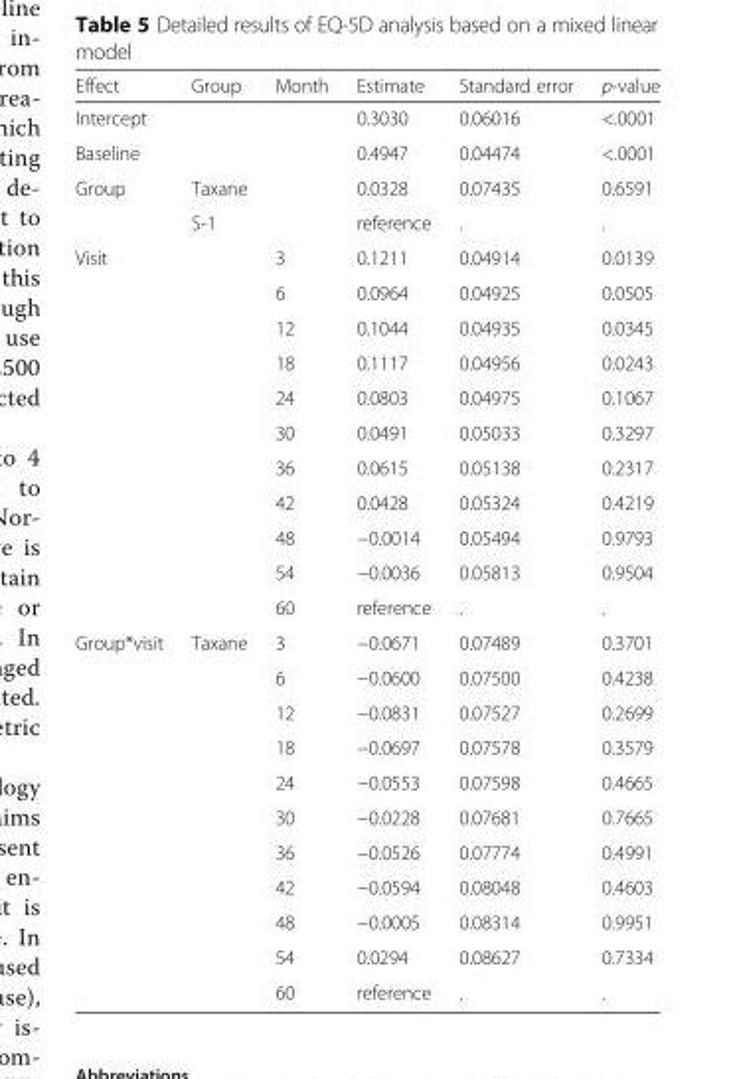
<table><thead><tr><td>Effect</td><td>Group</td><td>Month</td><td>Estimate</td><td>Standard error</td><td>p-value</td></tr></thead><tbody><tr><td>Intercept</td><td></td><td></td><td>0.3030</td><td>0.06016</td><td>&lt;.0001</td></tr><tr><td>Baseline</td><td></td><td></td><td>0.4947</td><td>0.04474</td><td>&lt;.0001</td></tr><tr><td rowspan="2">Group</td><td>Taxane</td><td></td><td>0.0328</td><td>0.07435</td><td>0.6591</td></tr><tr><td>S-1</td><td></td><td>reference</td><td>.</td><td>.</td></tr><tr><td rowspan="11">Visit</td><td></td><td>3</td><td>0.1211</td><td>0.04914</td><td>0.0139</td></tr><tr><td></td><td>6</td><td>0.0964</td><td>0.04925</td><td>0.0505</td></tr><tr><td></td><td>12</td><td>0.1044</td><td>0.04935</td><td>0.0345</td></tr><tr><td></td><td>18</td><td>0.1117</td><td>0.04956</td><td>0.0243</td></tr><tr><td></td><td>24</td><td>0.0803</td><td>0.04975</td><td>0.1067</td></tr><tr><td></td><td>30</td><td>0.0491</td><td>0.05033</td><td>0.3297</td></tr><tr><td></td><td>36</td><td>0.0615</td><td>0.05138</td><td>0.2317</td></tr><tr><td></td><td>42</td><td>0.0428</td><td>0.05324</td><td>0.4219</td></tr><tr><td></td><td>48</td><td>−0.0014</td><td>0.05494</td><td>0.9793</td></tr><tr><td></td><td>54</td><td>−0.0036</td><td>0.05813</td><td>0.9504</td></tr><tr><td></td><td>60</td><td>reference</td><td>.</td><td>.</td></tr><tr><td rowspan="11">Group*visit</td><td>Taxane</td><td>3</td><td>−0.0671</td><td>0.07489</td><td>0.3701</td></tr><tr><td></td><td>6</td><td>−0.0600</td><td>0.07500</td><td>0.4238</td></tr><tr><td></td><td>12</td><td>−0.0831</td><td>0.07527</td><td>0.2699</td></tr><tr><td></td><td>18</td><td>−0.0697</td><td>0.07578</td><td>0.3579</td></tr><tr><td></td><td>24</td><td>−0.0553</td><td>0.07598</td><td>0.4665</td></tr><tr><td></td><td>30</td><td>−0.0228</td><td>0.07681</td><td>0.7665</td></tr><tr><td></td><td>36</td><td>−0.0526</td><td>0.07774</td><td>0.4991</td></tr><tr><td></td><td>42</td><td>−0.0594</td><td>0.08048</td><td>0.4603</td></tr><tr><td></td><td>48</td><td>−0.0005</td><td>0.08314</td><td>0.9951</td></tr><tr><td></td><td>54</td><td>0.0294</td><td>0.08627</td><td>0.7334</td></tr><tr><td></td><td>60</td><td>reference</td><td>.</td><td>.</td></tr></tbody></table>